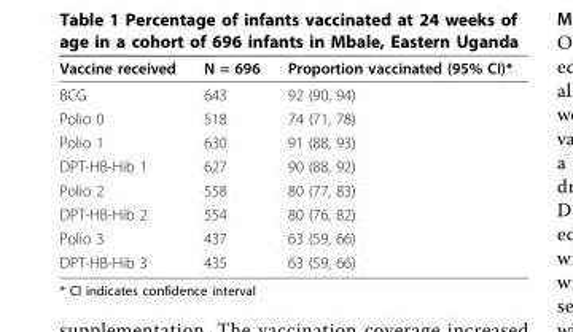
<table><thead><tr><td>Vaccine received</td><td>N = 696</td><td>Proportion vaccinated (95% CI)*</td></tr></thead><tbody><tr><td>BCG</td><td>643</td><td>92 (90, 94)</td></tr><tr><td>Polio 0</td><td>518</td><td>74 (71, 78)</td></tr><tr><td>Polio 1</td><td>630</td><td>91 (88, 93)</td></tr><tr><td>DPT-HB-Hib 1</td><td>627</td><td>90 (88, 92)</td></tr><tr><td>Polio 2</td><td>558</td><td>80 (77, 83)</td></tr><tr><td>DPT-HB-Hib 2</td><td>554</td><td>80 (76, 82)</td></tr><tr><td>Polio 3</td><td>437</td><td>63 (59, 66)</td></tr><tr><td>DPT-HB-Hib 3</td><td>435</td><td>63 (59, 66)</td></tr></tbody></table>